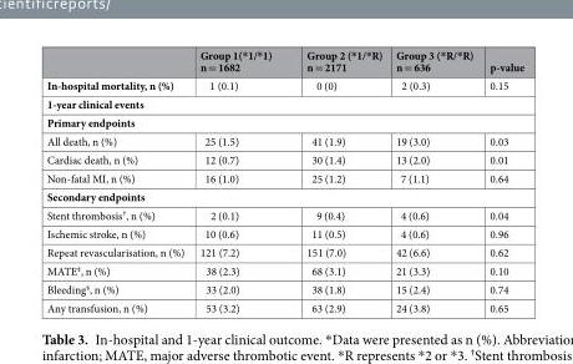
<table><thead><tr><td></td><td>Group 1(*1/*1) n = 1682</td><td>Group 2 (*1/*R) n = 2171</td><td>Group 3 (*R/*R) n = 636</td><td>p-value</td></tr></thead><tbody><tr><td>In-hospital mortality, n (%)</td><td>1 (0.1)</td><td>0 (0)</td><td>2 (0.3)</td><td>0.15</td></tr><tr><td colspan="5">1-year clinical events</td></tr><tr><td colspan="5">Primary endpoints</td></tr><tr><td>All death, n (%)</td><td>25 (1.5)</td><td>41 (1.9)</td><td>19 (3.0)</td><td>0.03</td></tr><tr><td>Cardiac death, n (%)</td><td>12 (0.7)</td><td>30 (1.4)</td><td>13 (2.0)</td><td>0.01</td></tr><tr><td>Non-fatal MI, n (%)</td><td>16 (1.0)</td><td>25 (1.2)</td><td>7 (1.1)</td><td>0.64</td></tr><tr><td colspan="5">Secondary endpoints</td></tr><tr><td>Stent thrombosis<sup>†</sup>, n (%)</td><td>2 (0.1)</td><td>9 (0.4)</td><td>4 (0.6)</td><td>0.04</td></tr><tr><td>Ischemic stroke, n (%)</td><td>10 (0.6)</td><td>11 (0.5)</td><td>4 (0.6)</td><td>0.96</td></tr><tr><td>Repeat revascularisation, n (%)</td><td>121 (7.2)</td><td>151 (7.0)</td><td>42 (6.6)</td><td>0.62</td></tr><tr><td>MATE<sup>‡</sup>, n (%)</td><td>38 (2.3)</td><td>68 (3.1)</td><td>21 (3.3)</td><td>0.10</td></tr><tr><td>Bleeding<sup>§</sup>, n (%)</td><td>33 (2.0)</td><td>38 (1.8)</td><td>15 (2.4)</td><td>0.74</td></tr><tr><td>Any transfusion, n (%)</td><td>53 (3.2)</td><td>63 (2.9)</td><td>24 (3.8)</td><td>0.65</td></tr></tbody></table>